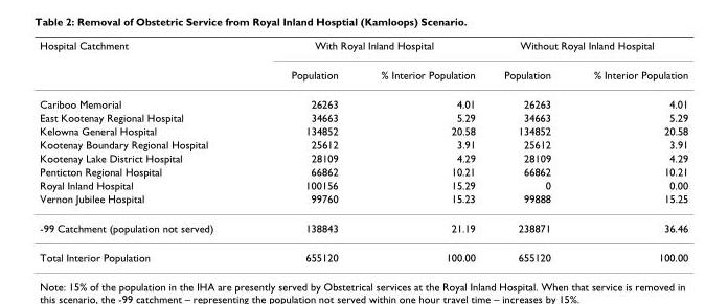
<table><thead><tr><td rowspan="2">Hospital Catchment</td><td colspan="2">With Royal Inland Hospital</td><td colspan="2">Without Royal Inland Hospital</td></tr><tr><td>Population</td><td>% Interior Population</td><td>Population</td><td>% Interior Population</td></tr></thead><tbody><tr><td>Cariboo Memorial</td><td>26263</td><td>4.01</td><td>26263</td><td>4.01</td></tr><tr><td>East Kootenay Regional Hospital</td><td>34663</td><td>5.29</td><td>34663</td><td>5.29</td></tr><tr><td>Kelowna General Hospital</td><td>134852</td><td>20.58</td><td>134852</td><td>20.58</td></tr><tr><td>Kootenay Boundary Regional Hospital</td><td>25612</td><td>3.91</td><td>25612</td><td>3.91</td></tr><tr><td>Kootenay Lake District Hospital</td><td>28109</td><td>4.29</td><td>28109</td><td>4.29</td></tr><tr><td>Penticton Regional Hospital</td><td>66862</td><td>10.21</td><td>66862</td><td>10.21</td></tr><tr><td>Royal Inland Hospital</td><td>100156</td><td>15.29</td><td>0</td><td>0.00</td></tr><tr><td>Vernon Jubilee Hospital</td><td>99760</td><td>15.23</td><td>99888</td><td>15.25</td></tr><tr><td>-99 Catchment (population not served)</td><td>138843</td><td>21.19</td><td>238871</td><td>36.46</td></tr><tr><td>Total Interior Population</td><td>655120</td><td>100.00</td><td>655120</td><td>100.00</td></tr></tbody></table>